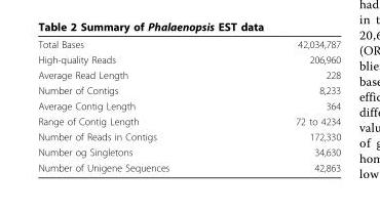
<table><tbody><tr><td>Total Bases</td><td>42,034,787</td></tr><tr><td>High-quality Reads</td><td>206,960</td></tr><tr><td>Average Read Length</td><td>228</td></tr><tr><td>Number of Contigs</td><td>8,233</td></tr><tr><td>Average Contig Length</td><td>364</td></tr><tr><td>Range of Contig Length</td><td>72 to 4234</td></tr><tr><td>Number of Reads in Contigs</td><td>172,330</td></tr><tr><td>Number og Singletons</td><td>34,630</td></tr><tr><td>Number of Unigene Sequences</td><td>42,863</td></tr></tbody></table>